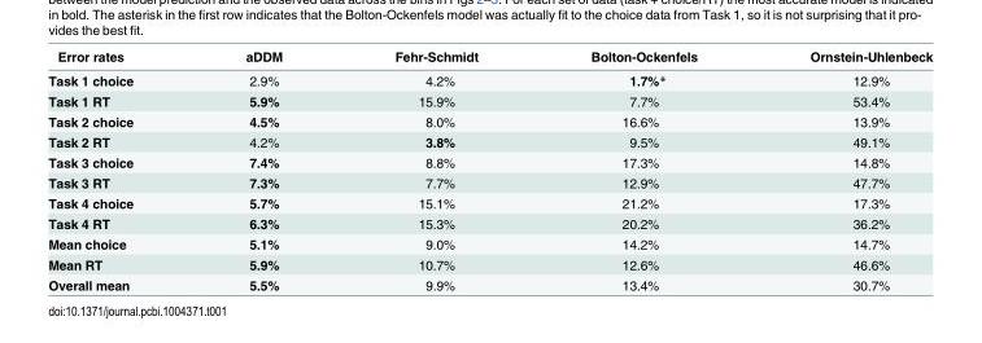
<table><thead><tr><td>Error rates</td><td>aDDM</td><td>Fehr-Schmidt</td><td>Bolton-Ockenfels</td><td>Ornstein-Uhlenbeck</td></tr></thead><tbody><tr><td>Task 1 choice</td><td>2.9%</td><td>4.2%</td><td>1.7%*</td><td>12.9%</td></tr><tr><td>Task 1 RT</td><td>5.9%</td><td>15.9%</td><td>7.7%</td><td>53.4%</td></tr><tr><td>Task 2 choice</td><td>4.5%</td><td>8.0%</td><td>16.6%</td><td>13.9%</td></tr><tr><td>Task 2 RT</td><td>4.2%</td><td>3.8%</td><td>9.5%</td><td>49.1%</td></tr><tr><td>Task 3 choice</td><td>7.4%</td><td>8.8%</td><td>17.3%</td><td>14.8%</td></tr><tr><td>Task 3 RT</td><td>7.3%</td><td>7.7%</td><td>12.9%</td><td>47.7%</td></tr><tr><td>Task 4 choice</td><td>5.7%</td><td>15.1%</td><td>21.2%</td><td>17.3%</td></tr><tr><td>Task 4 RT</td><td>6.3%</td><td>15.3%</td><td>20.2%</td><td>36.2%</td></tr><tr><td>Mean choice</td><td>5.1%</td><td>9.0%</td><td>14.2%</td><td>14.7%</td></tr><tr><td>Mean RT</td><td>5.9%</td><td>10.7%</td><td>12.6%</td><td>46.6%</td></tr><tr><td>Overall mean</td><td>5.5%</td><td>9.9%</td><td>13.4%</td><td>30.7%</td></tr></tbody></table>